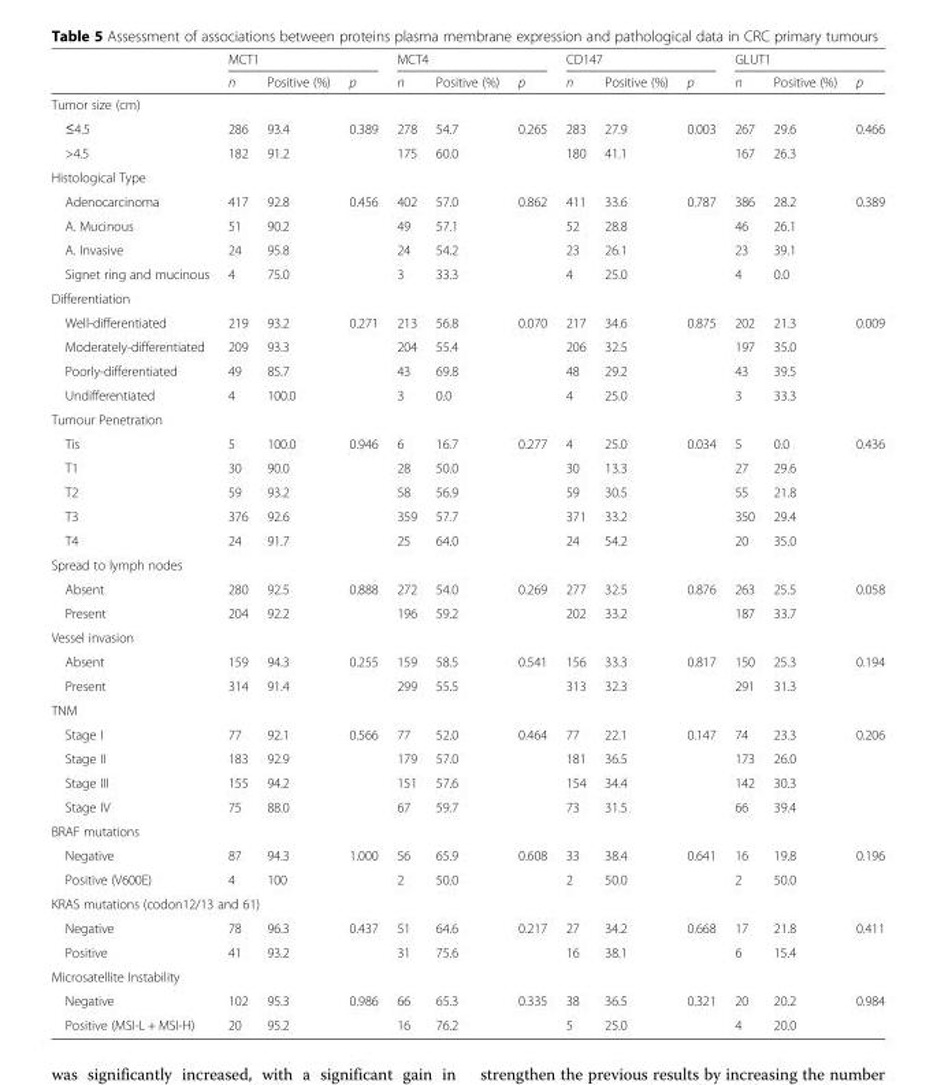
<table><thead><tr><td rowspan="2"></td><td colspan="3">MCT1</td><td colspan="3">MCT4</td><td colspan="3">CD147</td><td colspan="3">GLUT1</td></tr><tr><td>n</td><td>Positive (%)</td><td>p</td><td>n</td><td>Positive (%)</td><td>p</td><td>n</td><td>Positive (%)</td><td>p</td><td>n</td><td>Positive (%)</td><td>p</td></tr></thead><tbody><tr><td colspan="13">Tumor size (cm)</td></tr><tr><td>≤4.5</td><td>286</td><td>93.4</td><td>0.389</td><td>278</td><td>54.7</td><td>0.265</td><td>283</td><td>27.9</td><td>0.003</td><td>267</td><td>29.6</td><td>0.466</td></tr><tr><td>&gt;4.5</td><td>182</td><td>91.2</td><td></td><td>175</td><td>60.0</td><td></td><td>180</td><td>41.1</td><td></td><td>167</td><td>26.3</td><td></td></tr><tr><td colspan="13">Histological Type</td></tr><tr><td>Adenocarcinoma</td><td>417</td><td>92.8</td><td>0.456</td><td>402</td><td>57.0</td><td>0.862</td><td>411</td><td>33.6</td><td>0.787</td><td>386</td><td>28.2</td><td>0.389</td></tr><tr><td>A. Mucinous</td><td>51</td><td>90.2</td><td></td><td>49</td><td>57.1</td><td></td><td>52</td><td>28.8</td><td></td><td>46</td><td>26.1</td><td></td></tr><tr><td>A. Invasive</td><td>24</td><td>95.8</td><td></td><td>24</td><td>54.2</td><td></td><td>23</td><td>26.1</td><td></td><td>23</td><td>39.1</td><td></td></tr><tr><td>Signet ring and mucinous</td><td>4</td><td>75.0</td><td></td><td>3</td><td>33.3</td><td></td><td>4</td><td>25.0</td><td></td><td>4</td><td>0.0</td><td></td></tr><tr><td colspan="13">Differentiation</td></tr><tr><td>Well-differentiated</td><td>219</td><td>93.2</td><td>0.271</td><td>213</td><td>56.8</td><td>0.070</td><td>217</td><td>34.6</td><td>0.875</td><td>202</td><td>21.3</td><td>0.009</td></tr><tr><td>Moderately-differentiated</td><td>209</td><td>93.3</td><td></td><td>204</td><td>55.4</td><td></td><td>206</td><td>32.5</td><td></td><td>197</td><td>35.0</td><td></td></tr><tr><td>Poorly-differentiated</td><td>49</td><td>85.7</td><td></td><td>43</td><td>69.8</td><td></td><td>48</td><td>29.2</td><td></td><td>43</td><td>39.5</td><td></td></tr><tr><td>Undifferentiated</td><td>4</td><td>100.0</td><td></td><td>3</td><td>0.0</td><td></td><td>4</td><td>25.0</td><td></td><td>3</td><td>33.3</td><td></td></tr><tr><td colspan="13">Tumour Penetration</td></tr><tr><td>Tis</td><td>5</td><td>100.0</td><td>0.946</td><td>6</td><td>16.7</td><td>0.277</td><td>4</td><td>25.0</td><td>0.034</td><td>5</td><td>0.0</td><td>0.436</td></tr><tr><td>T1</td><td>30</td><td>90.0</td><td></td><td>28</td><td>50.0</td><td></td><td>30</td><td>13.3</td><td></td><td>27</td><td>29.6</td><td></td></tr><tr><td>T2</td><td>59</td><td>93.2</td><td></td><td>58</td><td>56.9</td><td></td><td>59</td><td>30.5</td><td></td><td>55</td><td>21.8</td><td></td></tr><tr><td>T3</td><td>376</td><td>92.6</td><td></td><td>359</td><td>57.7</td><td></td><td>371</td><td>33.2</td><td></td><td>350</td><td>29.4</td><td></td></tr><tr><td>T4</td><td>24</td><td>91.7</td><td></td><td>25</td><td>64.0</td><td></td><td>24</td><td>54.2</td><td></td><td>20</td><td>35.0</td><td></td></tr><tr><td colspan="13">Spread to lymph nodes</td></tr><tr><td>Absent</td><td>280</td><td>92.5</td><td>0.888</td><td>272</td><td>54.0</td><td>0.269</td><td>277</td><td>32.5</td><td>0.876</td><td>263</td><td>25.5</td><td>0.058</td></tr><tr><td>Present</td><td>204</td><td>92.2</td><td></td><td>196</td><td>59.2</td><td></td><td>202</td><td>33.2</td><td></td><td>187</td><td>33.7</td><td></td></tr><tr><td colspan="13">Vessel invasion</td></tr><tr><td>Absent</td><td>159</td><td>94.3</td><td>0.255</td><td>159</td><td>58.5</td><td>0.541</td><td>156</td><td>33.3</td><td>0.817</td><td>150</td><td>25.3</td><td>0.194</td></tr><tr><td>Present</td><td>314</td><td>91.4</td><td></td><td>299</td><td>55.5</td><td></td><td>313</td><td>32.3</td><td></td><td>291</td><td>31.3</td><td></td></tr><tr><td colspan="13">TNM</td></tr><tr><td>Stage I</td><td>77</td><td>92.1</td><td>0.566</td><td>77</td><td>52.0</td><td>0.464</td><td>77</td><td>22.1</td><td>0.147</td><td>74</td><td>23.3</td><td>0.206</td></tr><tr><td>Stage II</td><td>183</td><td>92.9</td><td></td><td>179</td><td>57.0</td><td></td><td>181</td><td>36.5</td><td></td><td>173</td><td>26.0</td><td></td></tr><tr><td>Stage III</td><td>155</td><td>94.2</td><td></td><td>151</td><td>57.6</td><td></td><td>154</td><td>34.4</td><td></td><td>142</td><td>30.3</td><td></td></tr><tr><td>Stage IV</td><td>75</td><td>88.0</td><td></td><td>67</td><td>59.7</td><td></td><td>73</td><td>31.5</td><td></td><td>66</td><td>39.4</td><td></td></tr><tr><td colspan="13">BRAF mutations</td></tr><tr><td>Negative</td><td>87</td><td>94.3</td><td>1.000</td><td>56</td><td>65.9</td><td>0.608</td><td>33</td><td>38.4</td><td>0.641</td><td>16</td><td>19.8</td><td>0.196</td></tr><tr><td>Positive (V600E)</td><td>4</td><td>100</td><td></td><td>2</td><td>50.0</td><td></td><td>2</td><td>50.0</td><td></td><td>2</td><td>50.0</td><td></td></tr><tr><td colspan="13">KRAS mutations (codon12/13 and 61)</td></tr><tr><td>Negative</td><td>78</td><td>96.3</td><td>0.437</td><td>51</td><td>64.6</td><td>0.217</td><td>27</td><td>34.2</td><td>0.668</td><td>17</td><td>21.8</td><td>0.411</td></tr><tr><td>Positive</td><td>41</td><td>93.2</td><td></td><td>31</td><td>75.6</td><td></td><td>16</td><td>38.1</td><td></td><td>6</td><td>15.4</td><td></td></tr><tr><td colspan="13">Microsatellite Instability</td></tr><tr><td>Negative</td><td>102</td><td>95.3</td><td>0.986</td><td>66</td><td>65.3</td><td>0.335</td><td>38</td><td>36.5</td><td>0.321</td><td>20</td><td>20.2</td><td>0.984</td></tr><tr><td>Positive (MSI-L + MSI-H)</td><td>20</td><td>95.2</td><td></td><td>16</td><td>76.2</td><td></td><td>5</td><td>25.0</td><td></td><td>4</td><td>20.0</td><td></td></tr></tbody></table>